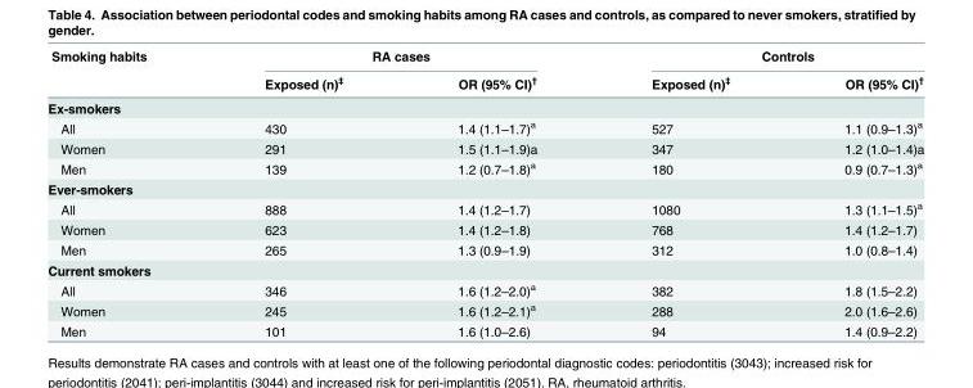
<table><thead><tr><td rowspan="2">Smoking habits</td><td colspan="2">RA cases</td><td colspan="2">Controls</td></tr><tr><td>Exposed (n)<sup>‡</sup></td><td>OR (95% CI)<sup>†</sup></td><td>Exposed (n)<sup>‡</sup></td><td>OR (95% CI)<sup>†</sup></td></tr></thead><tbody><tr><td colspan="5">Ex-smokers</td></tr><tr><td>All</td><td>430</td><td>1.4 (1.1–1.7)<sup>a</sup></td><td>527</td><td>1.1 (0.9–1.3)<sup>a</sup></td></tr><tr><td>Women</td><td>291</td><td>1.5 (1.1–1.9)<sup>a</sup></td><td>347</td><td>1.2 (1.0–1.4)<sup>a</sup></td></tr><tr><td>Men</td><td>139</td><td>1.2 (0.7–1.8)<sup>a</sup></td><td>180</td><td>0.9 (0.7–1.3)<sup>a</sup></td></tr><tr><td colspan="5">Ever-smokers</td></tr><tr><td>All</td><td>888</td><td>1.4 (1.2–1.7)</td><td>1080</td><td>1.3 (1.1–1.5)<sup>a</sup></td></tr><tr><td>Women</td><td>623</td><td>1.4 (1.2–1.8)</td><td>768</td><td>1.4 (1.2–1.7)</td></tr><tr><td>Men</td><td>265</td><td>1.3 (0.9–1.9)</td><td>312</td><td>1.0 (0.8–1.4)</td></tr><tr><td colspan="5">Current smokers</td></tr><tr><td>All</td><td>346</td><td>1.6 (1.2–2.0)<sup>a</sup></td><td>382</td><td>1.8 (1.5–2.2)</td></tr><tr><td>Women</td><td>245</td><td>1.6 (1.2–2.1)<sup>a</sup></td><td>288</td><td>2.0 (1.6–2.6)</td></tr><tr><td>Men</td><td>101</td><td>1.6 (1.0–2.6)</td><td>94</td><td>1.4 (0.9–2.2)</td></tr></tbody></table>